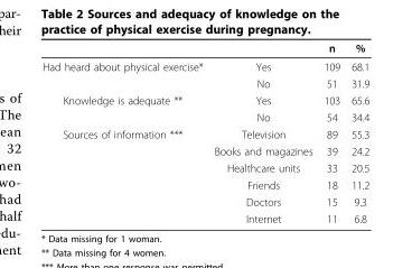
<table><thead><tr><td></td><td></td><td>n</td><td>%</td></tr></thead><tbody><tr><td rowspan="2">Had heard about physical exercise*</td><td>Yes</td><td>109</td><td>68.1</td></tr><tr><td>No</td><td>51</td><td>31.9</td></tr><tr><td rowspan="2">Knowledge is adequate **</td><td>Yes</td><td>103</td><td>65.6</td></tr><tr><td>No</td><td>54</td><td>34.4</td></tr><tr><td rowspan="6">Sources of information ***</td><td>Television</td><td>89</td><td>55.3</td></tr><tr><td>Books and magazines</td><td>39</td><td>24.2</td></tr><tr><td>Healthcare units</td><td>33</td><td>20.5</td></tr><tr><td>Friends</td><td>18</td><td>11.2</td></tr><tr><td>Doctors</td><td>15</td><td>9.3</td></tr><tr><td>Internet</td><td>11</td><td>6.8</td></tr></tbody></table>